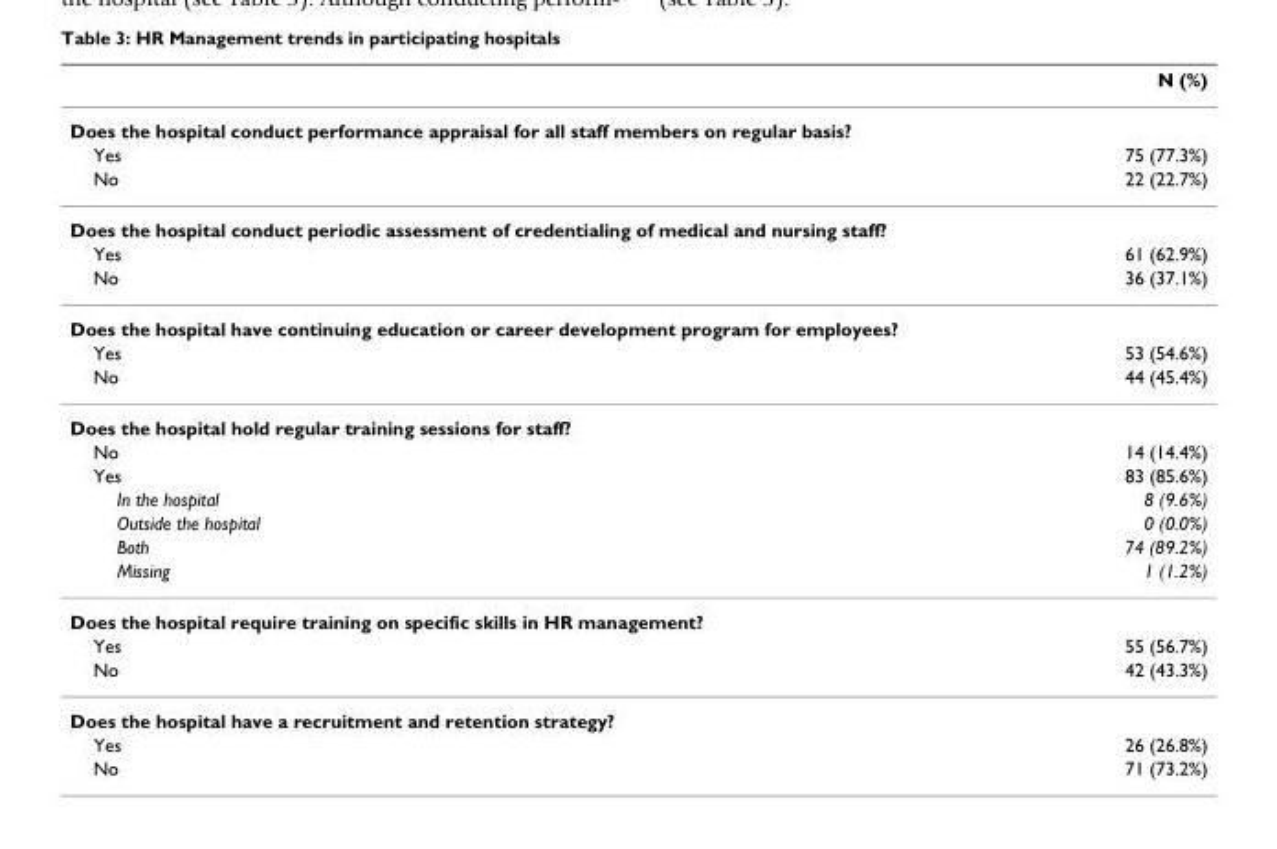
<table><thead><tr><td></td><td>N (%)</td></tr></thead><tbody><tr><td colspan="2">Does the hospital conduct performance appraisal for all staff members on regular basis?</td></tr><tr><td>Yes</td><td>75 (77.3%)</td></tr><tr><td>No</td><td>22 (22.7%)</td></tr><tr><td colspan="2">Does the hospital conduct periodic assessment of credentialing of medical and nursing staff?</td></tr><tr><td>Yes</td><td>61 (62.9%)</td></tr><tr><td>No</td><td>36 (37.1%)</td></tr><tr><td colspan="2">Does the hospital have continuing education or career development program for employees?</td></tr><tr><td>Yes</td><td>53 (54.6%)</td></tr><tr><td>No</td><td>44 (45.4%)</td></tr><tr><td colspan="2">Does the hospital hold regular training sessions for staff?</td></tr><tr><td>No</td><td>14 (14.4%)</td></tr><tr><td>Yes</td><td>83 (85.6%)</td></tr><tr><td>In the hospital</td><td>8 (9.6%)</td></tr><tr><td>Outside the hospital</td><td>0 (0.0%)</td></tr><tr><td>Both</td><td>74 (89.2%)</td></tr><tr><td>Missing</td><td>1 (1.2%)</td></tr><tr><td colspan="2">Does the hospital require training on specific skills in HR management?</td></tr><tr><td>Yes</td><td>55 (56.7%)</td></tr><tr><td>No</td><td>42 (43.3%)</td></tr><tr><td colspan="2">Does the hospital have a recruitment and retention strategy?</td></tr><tr><td>Yes</td><td>26 (26.8%)</td></tr><tr><td>No</td><td>71 (73.2%)</td></tr></tbody></table>